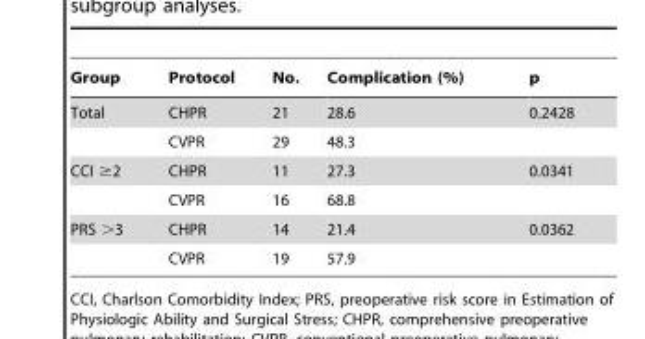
<table><thead><tr><td>Group</td><td>Protocol</td><td>No.</td><td>Complication (%)</td><td>p</td></tr></thead><tbody><tr><td rowspan="2">Total</td><td>CHPR</td><td>21</td><td>28.6</td><td>0.2428</td></tr><tr><td>CVPR</td><td>29</td><td>48.3</td><td></td></tr><tr><td rowspan="2">CCI ≥2</td><td>CHPR</td><td>11</td><td>27.3</td><td>0.0341</td></tr><tr><td>CVPR</td><td>16</td><td>68.8</td><td></td></tr><tr><td rowspan="2">PRS &gt;3</td><td>CHPR</td><td>14</td><td>21.4</td><td>0.0362</td></tr><tr><td>CVPR</td><td>19</td><td>57.9</td><td></td></tr></tbody></table>